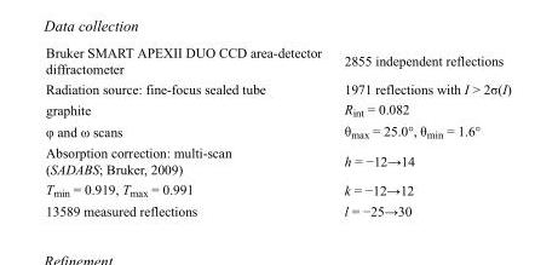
<table><tbody><tr><td>Bruker SMART APEXII DUO CCD area-detector diffractometer</td><td>2855 independent reflections</td></tr><tr><td>Radiation source: fine-focus sealed tube</td><td>1971 reflections with I &gt; 2σ(I)</td></tr><tr><td>graphite</td><td>R<sub>int</sub> = 0.082</td></tr><tr><td>φ and ω scans</td><td>θ<sub>max</sub> = 25.0°, θ<sub>min</sub> = 1.6°</td></tr><tr><td>Absorption correction: multi-scan (SADABS; Bruker, 2009)</td><td>h = −12→14</td></tr><tr><td>T<sub>min</sub> = 0.919, T<sub>max</sub> = 0.991</td><td>k = −12→12</td></tr><tr><td>13589 measured reflections</td><td>l = −25→30</td></tr></tbody></table>